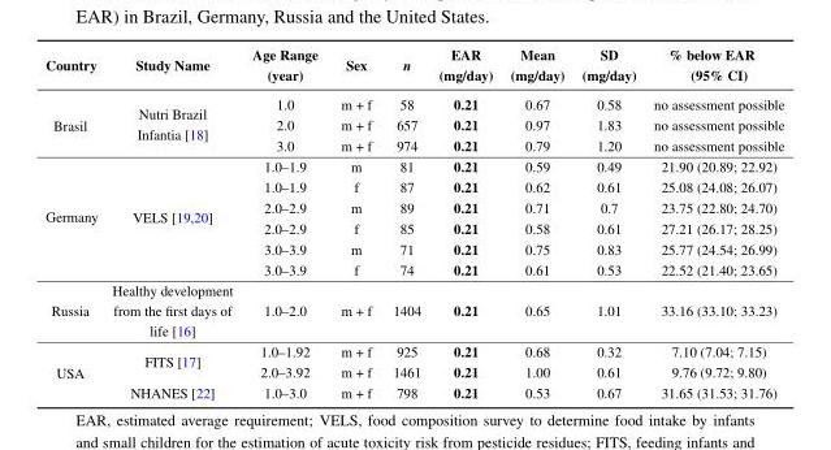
<table><thead><tr><td>Country</td><td>Study Name</td><td>Age Range (year)</td><td>Sex</td><td>n</td><td>EAR (mg/day)</td><td>Mean (mg/day)</td><td>SD (mg/day)</td><td>% below EAR (95% CI)</td></tr></thead><tbody><tr><td rowspan="3">Brasil</td><td rowspan="3">Nutri Brazil Infantia [18]</td><td>1.0</td><td>m + f</td><td>58</td><td>0.21</td><td>0.67</td><td>0.58</td><td>no assessment possible</td></tr><tr><td>2.0</td><td>m + f</td><td>657</td><td>0.21</td><td>0.97</td><td>1.83</td><td>no assessment possible</td></tr><tr><td>3.0</td><td>m + f</td><td>974</td><td>0.21</td><td>0.79</td><td>1.20</td><td>no assessment possible</td></tr><tr><td rowspan="6">Germany</td><td rowspan="6">VELS [19,20]</td><td>1.0–1.9</td><td>m</td><td>81</td><td>0.21</td><td>0.59</td><td>0.49</td><td>21.90 (20.89; 22.92)</td></tr><tr><td>1.0–1.9</td><td>f</td><td>87</td><td>0.21</td><td>0.62</td><td>0.61</td><td>25.08 (24.08; 26.07)</td></tr><tr><td>2.0–2.9</td><td>m</td><td>89</td><td>0.21</td><td>0.71</td><td>0.7</td><td>23.75 (22.80; 24.70)</td></tr><tr><td>2.0–2.9</td><td>f</td><td>85</td><td>0.21</td><td>0.58</td><td>0.61</td><td>27.21 (26.17; 28.25)</td></tr><tr><td>3.0–3.9</td><td>m</td><td>71</td><td>0.21</td><td>0.75</td><td>0.83</td><td>25.77 (24.54; 26.99)</td></tr><tr><td>3.0–3.9</td><td>f</td><td>74</td><td>0.21</td><td>0.61</td><td>0.53</td><td>22.52 (21.40; 23.65)</td></tr><tr><td>Russia</td><td>Healthy development from the first days of life [16]</td><td>1.0–2.0</td><td>m + f</td><td>1404</td><td>0.21</td><td>0.65</td><td>1.01</td><td>33.16 (33.10; 33.23)</td></tr><tr><td rowspan="3">USA</td><td rowspan="2">FITS [17]</td><td>1.0–1.92</td><td>m + f</td><td>925</td><td>0.21</td><td>0.68</td><td>0.32</td><td>7.10 (7.04; 7.15)</td></tr><tr><td>2.0–3.92</td><td>m + f</td><td>1461</td><td>0.21</td><td>1.00</td><td>0.61</td><td>9.76 (9.72; 9.80)</td></tr><tr><td>NHANES [22]</td><td>1.0–3.0</td><td>m + f</td><td>798</td><td>0.21</td><td>0.53</td><td>0.67</td><td>31.65 (31.53; 31.76)</td></tr></tbody></table>